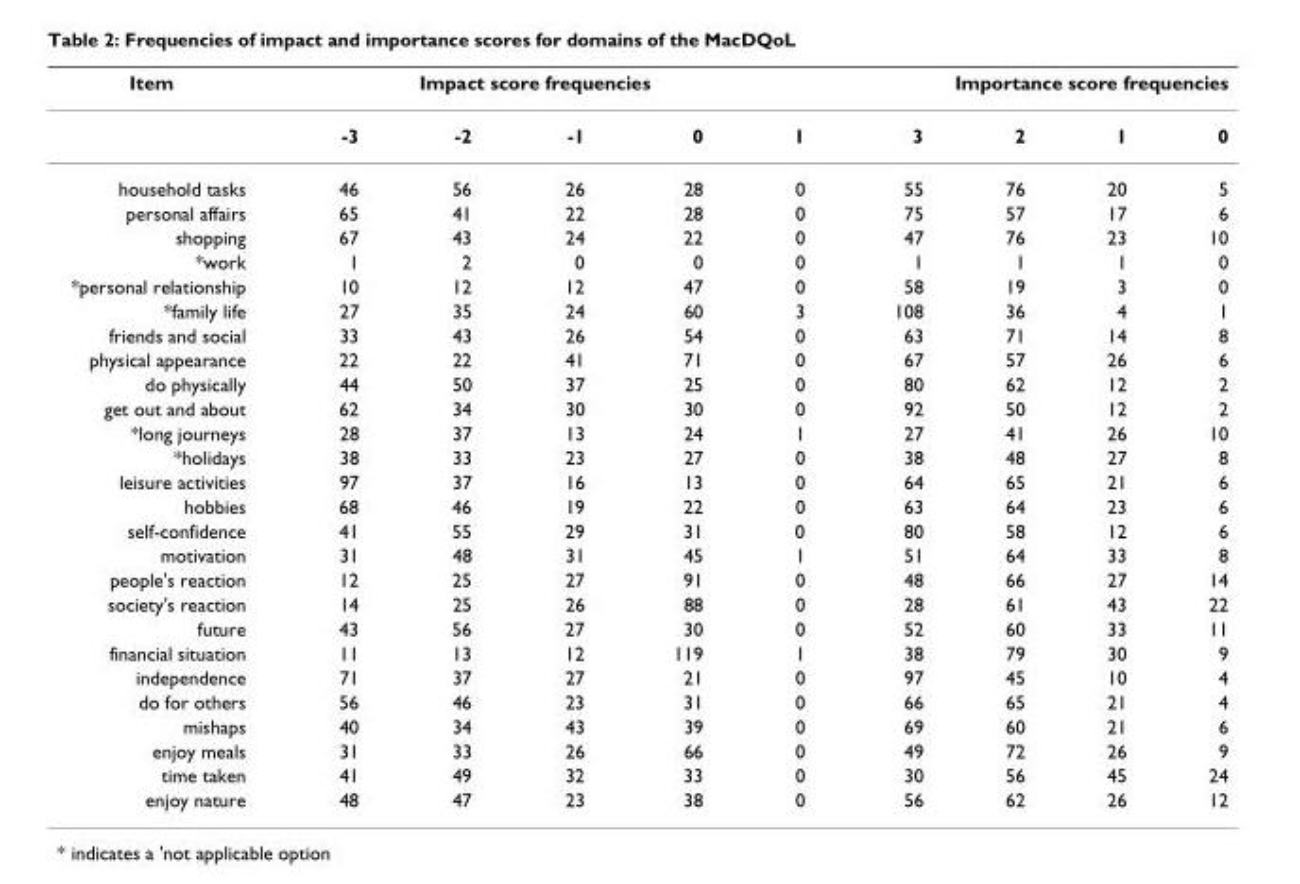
<table><thead><tr><td rowspan="2">Item</td><td colspan="5">Impact score frequencies</td><td colspan="4">Importance score frequencies</td></tr><tr><td>-3</td><td>-2</td><td>-1</td><td>0</td><td>1</td><td>3</td><td>2</td><td>1</td><td>0</td></tr></thead><tbody><tr><td>household tasks</td><td>46</td><td>56</td><td>26</td><td>28</td><td>0</td><td>55</td><td>76</td><td>20</td><td>5</td></tr><tr><td>personal affairs</td><td>65</td><td>41</td><td>22</td><td>28</td><td>0</td><td>75</td><td>57</td><td>17</td><td>6</td></tr><tr><td>shopping</td><td>67</td><td>43</td><td>24</td><td>22</td><td>0</td><td>47</td><td>76</td><td>23</td><td>10</td></tr><tr><td>*work</td><td>1</td><td>2</td><td>0</td><td>0</td><td>0</td><td>1</td><td>1</td><td>1</td><td>0</td></tr><tr><td>*personal relationship</td><td>10</td><td>12</td><td>12</td><td>47</td><td>0</td><td>58</td><td>19</td><td>3</td><td>0</td></tr><tr><td>*family life</td><td>27</td><td>35</td><td>24</td><td>60</td><td>3</td><td>108</td><td>36</td><td>4</td><td>1</td></tr><tr><td>friends and social</td><td>33</td><td>43</td><td>26</td><td>54</td><td>0</td><td>63</td><td>71</td><td>14</td><td>8</td></tr><tr><td>physical appearance</td><td>22</td><td>22</td><td>41</td><td>71</td><td>0</td><td>67</td><td>57</td><td>26</td><td>6</td></tr><tr><td>do physically</td><td>44</td><td>50</td><td>37</td><td>25</td><td>0</td><td>80</td><td>62</td><td>12</td><td>2</td></tr><tr><td>get out and about</td><td>62</td><td>34</td><td>30</td><td>30</td><td>0</td><td>92</td><td>50</td><td>12</td><td>2</td></tr><tr><td>*long journeys</td><td>28</td><td>37</td><td>13</td><td>24</td><td>1</td><td>27</td><td>41</td><td>26</td><td>10</td></tr><tr><td>*holidays</td><td>38</td><td>33</td><td>23</td><td>27</td><td>0</td><td>38</td><td>48</td><td>27</td><td>8</td></tr><tr><td>leisure activities</td><td>97</td><td>37</td><td>16</td><td>13</td><td>0</td><td>64</td><td>65</td><td>21</td><td>6</td></tr><tr><td>hobbies</td><td>68</td><td>46</td><td>19</td><td>22</td><td>0</td><td>63</td><td>64</td><td>23</td><td>6</td></tr><tr><td>self-confidence</td><td>41</td><td>55</td><td>29</td><td>31</td><td>0</td><td>80</td><td>58</td><td>12</td><td>6</td></tr><tr><td>motivation</td><td>31</td><td>48</td><td>31</td><td>45</td><td>1</td><td>51</td><td>64</td><td>33</td><td>8</td></tr><tr><td>people&#x27;s reaction</td><td>12</td><td>25</td><td>27</td><td>91</td><td>0</td><td>48</td><td>66</td><td>27</td><td>14</td></tr><tr><td>society&#x27;s reaction</td><td>14</td><td>25</td><td>26</td><td>88</td><td>0</td><td>28</td><td>61</td><td>43</td><td>22</td></tr><tr><td>future</td><td>43</td><td>56</td><td>27</td><td>30</td><td>0</td><td>52</td><td>60</td><td>33</td><td>11</td></tr><tr><td>financial situation</td><td>11</td><td>13</td><td>12</td><td>119</td><td>1</td><td>38</td><td>79</td><td>30</td><td>9</td></tr><tr><td>independence</td><td>71</td><td>37</td><td>27</td><td>21</td><td>0</td><td>97</td><td>45</td><td>10</td><td>4</td></tr><tr><td>do for others</td><td>56</td><td>46</td><td>23</td><td>31</td><td>0</td><td>66</td><td>65</td><td>21</td><td>4</td></tr><tr><td>mishaps</td><td>40</td><td>34</td><td>43</td><td>39</td><td>0</td><td>69</td><td>60</td><td>21</td><td>6</td></tr><tr><td>enjoy meals</td><td>31</td><td>33</td><td>26</td><td>66</td><td>0</td><td>49</td><td>72</td><td>26</td><td>9</td></tr><tr><td>time taken</td><td>41</td><td>49</td><td>32</td><td>33</td><td>0</td><td>30</td><td>56</td><td>45</td><td>24</td></tr><tr><td>enjoy nature</td><td>48</td><td>47</td><td>23</td><td>38</td><td>0</td><td>56</td><td>62</td><td>26</td><td>12</td></tr></tbody></table>